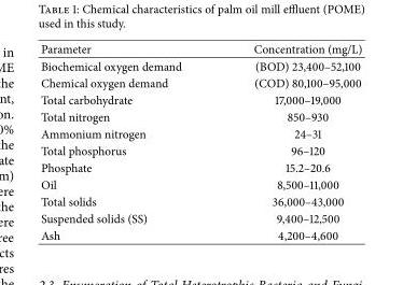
<table><thead><tr><td>Parameter</td><td>Concentration (mg/L)</td></tr></thead><tbody><tr><td>Biochemical oxygen demand</td><td>(BOD) 23,400–52,100</td></tr><tr><td>Chemical oxygen demand</td><td>(COD) 80,100–95,000</td></tr><tr><td>Total carbohydrate</td><td>17,000–19,000</td></tr><tr><td>Total nitrogen</td><td>850–930</td></tr><tr><td>Ammonium nitrogen</td><td>24–31</td></tr><tr><td>Total phosphorus</td><td>96–120</td></tr><tr><td>Phosphate</td><td>15.2–20.6</td></tr><tr><td>Oil</td><td>8,500–11,000</td></tr><tr><td>Total solids</td><td>36,000–43,000</td></tr><tr><td>Suspended solids (SS)</td><td>9,400–12,500</td></tr><tr><td>Ash</td><td>4,200–4,600</td></tr></tbody></table>